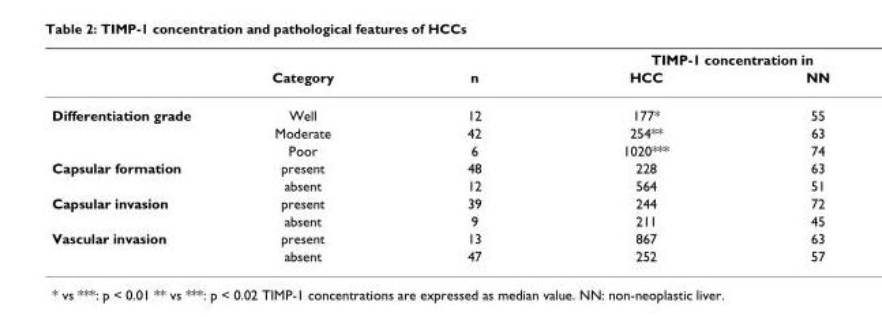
<table><thead><tr><td rowspan="2"></td><td rowspan="2">Category</td><td rowspan="2">n</td><td colspan="2">TIMP-1 concentration in</td></tr><tr><td>HCC</td><td>NN</td></tr></thead><tbody><tr><td rowspan="3">Differentiation grade</td><td>Well</td><td>12</td><td>177*</td><td>55</td></tr><tr><td>Moderate</td><td>42</td><td>254**</td><td>63</td></tr><tr><td>Poor</td><td>6</td><td>1020***</td><td>74</td></tr><tr><td rowspan="2">Capsular formation</td><td>present</td><td>48</td><td>228</td><td>63</td></tr><tr><td>absent</td><td>12</td><td>564</td><td>51</td></tr><tr><td rowspan="2">Capsular invasion</td><td>present</td><td>39</td><td>244</td><td>72</td></tr><tr><td>absent</td><td>9</td><td>211</td><td>45</td></tr><tr><td rowspan="2">Vascular invasion</td><td>present</td><td>13</td><td>867</td><td>63</td></tr><tr><td>absent</td><td>47</td><td>252</td><td>57</td></tr></tbody></table>